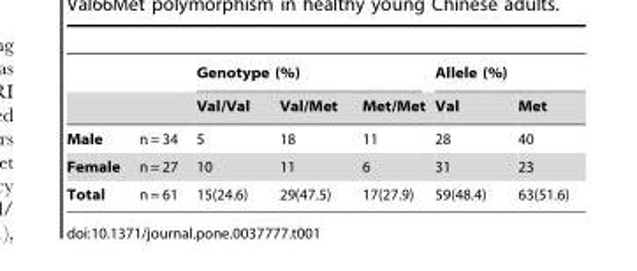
<table><thead><tr><td rowspan="2"></td><td rowspan="2"></td><td colspan="3">Genotype (%)</td><td colspan="2">Allele (%)</td></tr><tr><td>Val/Val</td><td>Val/Met</td><td>Met/Met</td><td>Val</td><td>Met</td></tr></thead><tbody><tr><td>Male</td><td>n = 34</td><td>5</td><td>18</td><td>11</td><td>28</td><td>40</td></tr><tr><td>Female</td><td>n = 27</td><td>10</td><td>11</td><td>6</td><td>31</td><td>23</td></tr><tr><td>Total</td><td>n = 61</td><td>15(24.6)</td><td>29(47.5)</td><td>17(27.9)</td><td>59(48.4)</td><td>63(51.6)</td></tr></tbody></table>